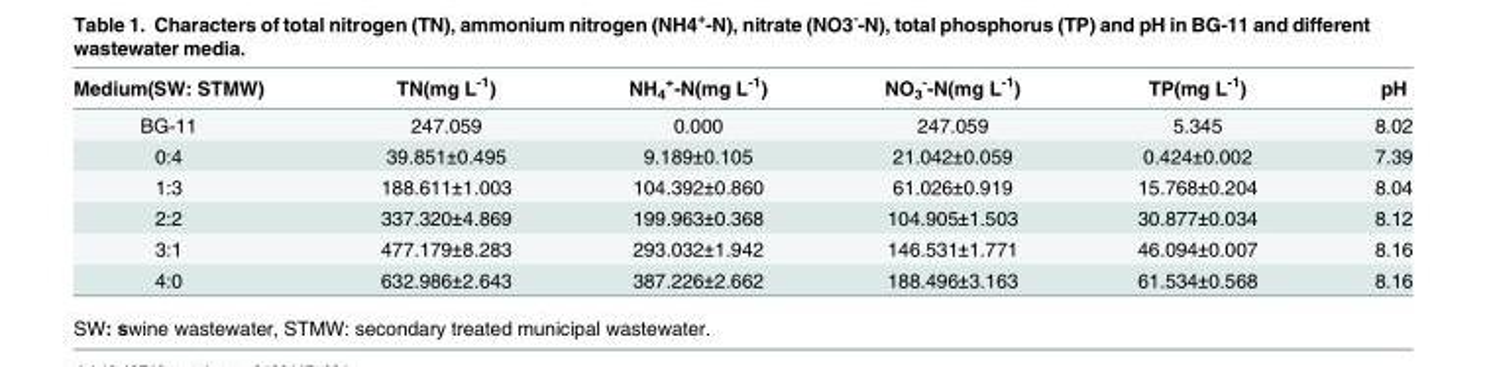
<table><thead><tr><td>Medium(SW: STMW)</td><td>TN(mg L<sup>-1</sup>)</td><td>NH<sub>4</sub> <sup>+</sup>-N(mg L<sup>-1</sup>)</td><td>NO<sub>3</sub> <sup>-</sup>-N(mg L<sup>-1</sup>)</td><td>TP(mg L<sup>-1</sup>)</td><td>pH</td></tr></thead><tbody><tr><td>BG-11</td><td>247.059</td><td>0.000</td><td>247.059</td><td>5.345</td><td>8.02</td></tr><tr><td>0:4</td><td>39.851±0.495</td><td>9.189±0.105</td><td>21.042±0.059</td><td>0.424±0.002</td><td>7.39</td></tr><tr><td>1:3</td><td>188.611±1.003</td><td>104.392±0.860</td><td>61.026±0.919</td><td>15.768±0.204</td><td>8.04</td></tr><tr><td>2:2</td><td>337.320±4.869</td><td>199.963±0.368</td><td>104.905±1.503</td><td>30.877±0.034</td><td>8.12</td></tr><tr><td>3:1</td><td>477.179±8.283</td><td>293.032±1.942</td><td>146.531±1.771</td><td>46.094±0.007</td><td>8.16</td></tr><tr><td>4:0</td><td>632.986±2.643</td><td>387.226±2.662</td><td>188.496±3.163</td><td>61.534±0.568</td><td>8.16</td></tr></tbody></table>